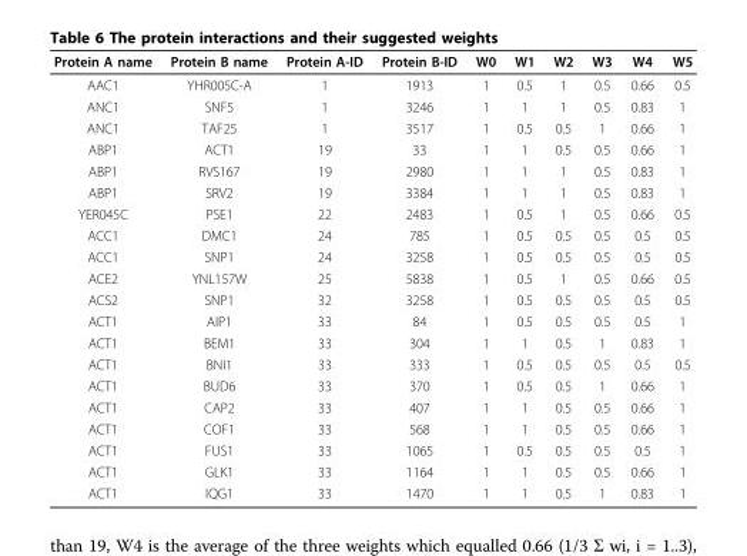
<table><thead><tr><td>Protein A name</td><td>Protein B name</td><td>Protein A-ID</td><td>Protein B-ID</td><td>W0</td><td>W1</td><td>W2</td><td>W3</td><td>W4</td><td>W5</td></tr></thead><tbody><tr><td>AAC1</td><td>YHR005C-A</td><td>1</td><td>1913</td><td>1</td><td>0.5</td><td>1</td><td>0.5</td><td>0.66</td><td>0.5</td></tr><tr><td>ANC1</td><td>SNF5</td><td>1</td><td>3246</td><td>1</td><td>1</td><td>1</td><td>0.5</td><td>0.83</td><td>1</td></tr><tr><td>ANC1</td><td>TAF25</td><td>1</td><td>3517</td><td>1</td><td>0.5</td><td>0.5</td><td>1</td><td>0.66</td><td>1</td></tr><tr><td>ABP1</td><td>ACT1</td><td>19</td><td>33</td><td>1</td><td>1</td><td>0.5</td><td>0.5</td><td>0.66</td><td>1</td></tr><tr><td>ABP1</td><td>RVS167</td><td>19</td><td>2980</td><td>1</td><td>1</td><td>1</td><td>0.5</td><td>0.83</td><td>1</td></tr><tr><td>ABP1</td><td>SRV2</td><td>19</td><td>3384</td><td>1</td><td>1</td><td>1</td><td>0.5</td><td>0.83</td><td>1</td></tr><tr><td>YER045C</td><td>PSE1</td><td>22</td><td>2483</td><td>1</td><td>0.5</td><td>1</td><td>0.5</td><td>0.66</td><td>0.5</td></tr><tr><td>ACC1</td><td>DMC1</td><td>24</td><td>785</td><td>1</td><td>0.5</td><td>0.5</td><td>0.5</td><td>0.5</td><td>0.5</td></tr><tr><td>ACC1</td><td>SNP1</td><td>24</td><td>3258</td><td>1</td><td>0.5</td><td>0.5</td><td>0.5</td><td>0.5</td><td>0.5</td></tr><tr><td>ACE2</td><td>YNL157W</td><td>25</td><td>5838</td><td>1</td><td>0.5</td><td>1</td><td>0.5</td><td>0.66</td><td>0.5</td></tr><tr><td>ACS2</td><td>SNP1</td><td>32</td><td>3258</td><td>1</td><td>0.5</td><td>0.5</td><td>0.5</td><td>0.5</td><td>0.5</td></tr><tr><td>ACT1</td><td>AIP1</td><td>33</td><td>84</td><td>1</td><td>0.5</td><td>0.5</td><td>0.5</td><td>0.5</td><td>1</td></tr><tr><td>ACT1</td><td>BEM1</td><td>33</td><td>304</td><td>1</td><td>1</td><td>0.5</td><td>1</td><td>0.83</td><td>1</td></tr><tr><td>ACT1</td><td>BNI1</td><td>33</td><td>333</td><td>1</td><td>0.5</td><td>0.5</td><td>0.5</td><td>0.5</td><td>0.5</td></tr><tr><td>ACT1</td><td>BUD6</td><td>33</td><td>370</td><td>1</td><td>0.5</td><td>0.5</td><td>1</td><td>0.66</td><td>1</td></tr><tr><td>ACT1</td><td>CAP2</td><td>33</td><td>407</td><td>1</td><td>1</td><td>0.5</td><td>0.5</td><td>0.66</td><td>1</td></tr><tr><td>ACT1</td><td>COF1</td><td>33</td><td>568</td><td>1</td><td>1</td><td>0.5</td><td>0.5</td><td>0.66</td><td>1</td></tr><tr><td>ACT1</td><td>FUS1</td><td>33</td><td>1065</td><td>1</td><td>0.5</td><td>0.5</td><td>0.5</td><td>0.5</td><td>1</td></tr><tr><td>ACT1</td><td>GLK1</td><td>33</td><td>1164</td><td>1</td><td>1</td><td>0.5</td><td>0.5</td><td>0.66</td><td>1</td></tr><tr><td>ACT1</td><td>IQG1</td><td>33</td><td>1470</td><td>1</td><td>1</td><td>0.5</td><td>1</td><td>0.83</td><td>1</td></tr></tbody></table>